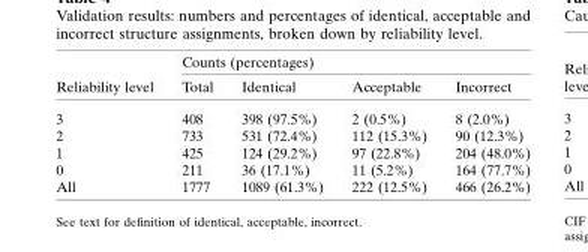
<table><thead><tr><td rowspan="2">Reliability level</td><td colspan="4">Counts (percentages)</td></tr><tr><td>Total</td><td>Identical</td><td>Acceptable</td><td>Incorrect</td></tr></thead><tbody><tr><td>3</td><td>408</td><td>398 (97.5%)</td><td>2 (0.5%)</td><td>8 (2.0%)</td></tr><tr><td>2</td><td>733</td><td>531 (72.4%)</td><td>112 (15.3%)</td><td>90 (12.3%)</td></tr><tr><td>1</td><td>425</td><td>124 (29.2%)</td><td>97 (22.8%)</td><td>204 (48.0%)</td></tr><tr><td>0</td><td>211</td><td>36 (17.1%)</td><td>11 (5.2%)</td><td>164 (77.7%)</td></tr><tr><td>All</td><td>1777</td><td>1089 (61.3%)</td><td>222 (12.5%)</td><td>466 (26.2%)</td></tr></tbody></table>